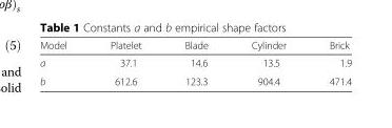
<table><thead><tr><td>Model</td><td>Platelet</td><td>Blade</td><td>Cylinder</td><td>Brick</td></tr></thead><tbody><tr><td>a</td><td>37.1</td><td>14.6</td><td>13.5</td><td>1.9</td></tr><tr><td>b</td><td>612.6</td><td>123.3</td><td>904.4</td><td>471.4</td></tr></tbody></table>